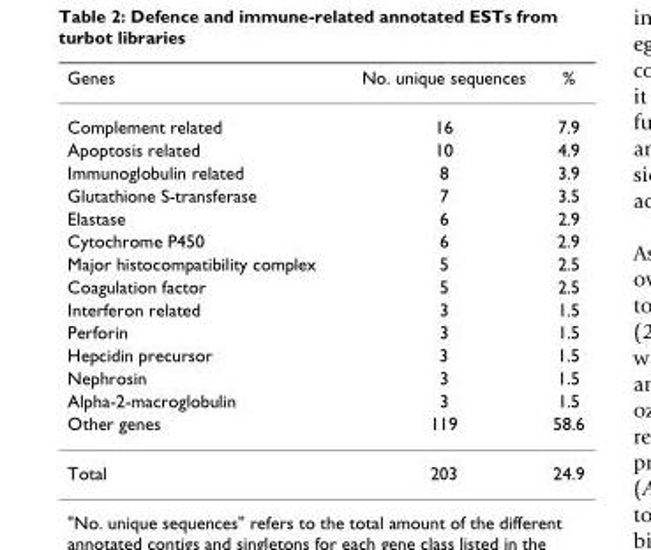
<table><thead><tr><td>Genes</td><td>No. unique sequences</td><td>%</td></tr></thead><tbody><tr><td>Complement related</td><td>16</td><td>7.9</td></tr><tr><td>Apoptosis related</td><td>10</td><td>4.9</td></tr><tr><td>Immunoglobulin related</td><td>8</td><td>3.9</td></tr><tr><td>Glutathione S-transferase</td><td>7</td><td>3.5</td></tr><tr><td>Elastase</td><td>6</td><td>2.9</td></tr><tr><td>Cytochrome P450</td><td>6</td><td>2.9</td></tr><tr><td>Major histocompatibility complex</td><td>5</td><td>2.5</td></tr><tr><td>Coagulation factor</td><td>5</td><td>2.5</td></tr><tr><td>Interferon related</td><td>3</td><td>1.5</td></tr><tr><td>Perforin</td><td>3</td><td>1.5</td></tr><tr><td>Hepcidin precursor</td><td>3</td><td>1.5</td></tr><tr><td>Nephrosin</td><td>3</td><td>1.5</td></tr><tr><td>Alpha-2-macroglobulin</td><td>3</td><td>1.5</td></tr><tr><td>Other genes</td><td>119</td><td>58.6</td></tr><tr><td>Total</td><td>203</td><td>24.9</td></tr></tbody></table>